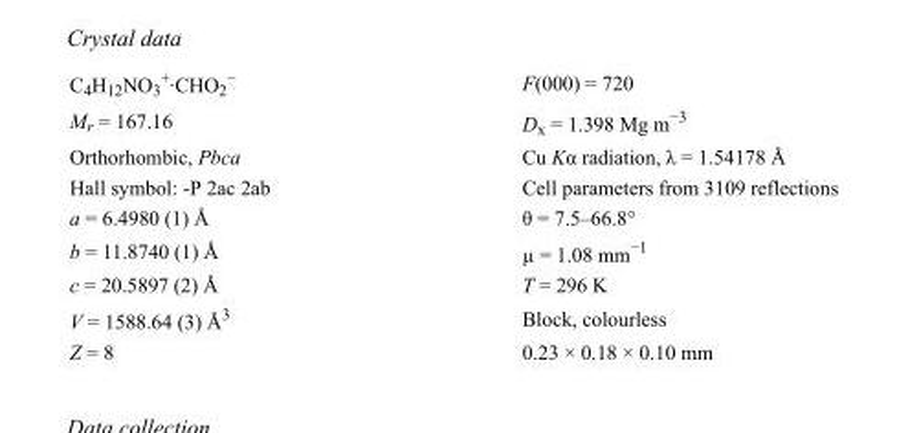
<table><tbody><tr><td>C<sub>4</sub>H<sub>12</sub>NO<sub>3</sub> <sup>+</sup>·CHO<sub>2</sub> <sup>−</sup></td><td>F(000) = 720</td></tr><tr><td>M<sub>r</sub> = 167.16</td><td>D<sub>x</sub> = 1.398 Mg m<sup>−3</sup></td></tr><tr><td>Orthorhombic, Pbca</td><td>Cu Kα radiation, λ = 1.54178 Å</td></tr><tr><td>Hall symbol: -P 2ac 2ab</td><td>Cell parameters from 3109 reflections</td></tr><tr><td>a = 6.4980 (1) Å</td><td>θ = 7.5–66.8°</td></tr><tr><td>b = 11.8740 (1) Å</td><td>µ = 1.08 mm<sup>−1</sup></td></tr><tr><td>c = 20.5897 (2) Å</td><td>T = 296 K</td></tr><tr><td>V = 1588.64 (3) Å<sup>3</sup></td><td>Block, colourless</td></tr><tr><td>Z = 8</td><td>0.23 × 0.18 × 0.10 mm</td></tr></tbody></table>